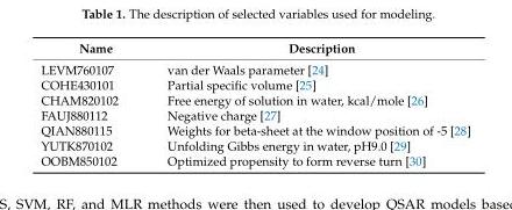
<table><thead><tr><td>Name</td><td>Description</td></tr></thead><tbody><tr><td>LEVM760107</td><td>van der Waals parameter [24]</td></tr><tr><td>COHE430101</td><td>Partial specific volume [25]</td></tr><tr><td>CHAM820102</td><td>Free energy of solution in water, kcal/mole [26]</td></tr><tr><td>FAUJ880112</td><td>Negative charge [27]</td></tr><tr><td>QIAN880115</td><td>Weights for beta-sheet at the window position of -5 [28]</td></tr><tr><td>YUTK870102</td><td>Unfolding Gibbs energy in water, pH9.0 [29]</td></tr><tr><td>OOBM850102</td><td>Optimized propensity to form reverse turn [30]</td></tr></tbody></table>